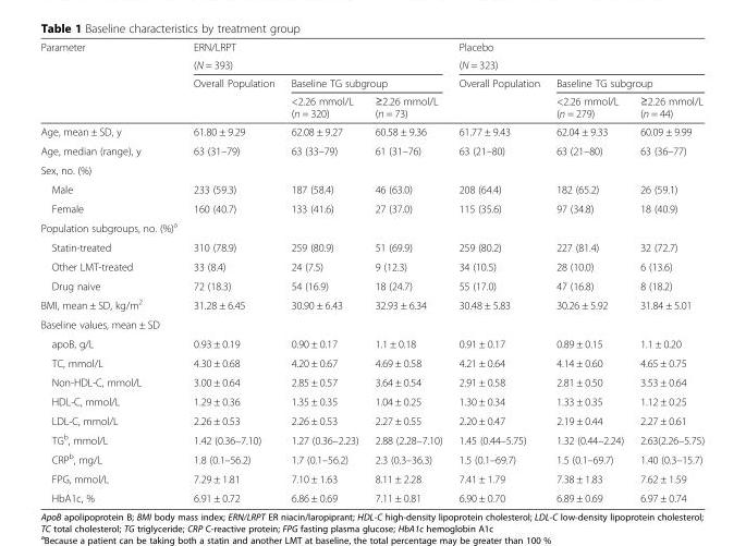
<table><thead><tr><td rowspan="4">Parameter</td><td>ERN/LRPT</td><td></td><td></td><td>Placebo</td><td></td><td></td></tr><tr><td colspan="3">(N = 393)</td><td colspan="3">(N = 323)</td></tr><tr><td rowspan="2">Overall Population</td><td colspan="2">Baseline TG subgroup</td><td rowspan="2">Overall Population</td><td colspan="2">Baseline TG subgroup</td></tr><tr><td>&lt;2.26 mmol/L (n = 320)</td><td>≥2.26 mmol/L (n = 73)</td><td>&lt;2.26 mmol/L (n = 279)</td><td>≥2.26 mmol/L (n = 44)</td></tr></thead><tbody><tr><td>Age, mean ± SD, y</td><td>61.80 ± 9.29</td><td>62.08 ± 9.27</td><td>60.58 ± 9.36</td><td>61.77 ± 9.43</td><td>62.04 ± 9.33</td><td>60.09 ± 9.99</td></tr><tr><td>Age, median (range), y</td><td>63 (31–79)</td><td>63 (33–79)</td><td>61 (31–76)</td><td>63 (21–80)</td><td>63 (21–80)</td><td>63 (36–77)</td></tr><tr><td colspan="7">Sex, no. (%)</td></tr><tr><td>Male</td><td>233 (59.3)</td><td>187 (58.4)</td><td>46 (63.0)</td><td>208 (64.4)</td><td>182 (65.2)</td><td>26 (59.1)</td></tr><tr><td>Female</td><td>160 (40.7)</td><td>133 (41.6)</td><td>27 (37.0)</td><td>115 (35.6)</td><td>97 (34.8)</td><td>18 (40.9)</td></tr><tr><td colspan="7">Population subgroups, no. (%)<sup>a</sup></td></tr><tr><td>Statin-treated</td><td>310 (78.9)</td><td>259 (80.9)</td><td>51 (69.9)</td><td>259 (80.2)</td><td>227 (81.4)</td><td>32 (72.7)</td></tr><tr><td>Other LMT-treated</td><td>33 (8.4)</td><td>24 (7.5)</td><td>9 (12.3)</td><td>34 (10.5)</td><td>28 (10.0)</td><td>6 (13.6)</td></tr><tr><td>Drug naive</td><td>72 (18.3)</td><td>54 (16.9)</td><td>18 (24.7)</td><td>55 (17.0)</td><td>47 (16.8)</td><td>8 (18.2)</td></tr><tr><td>BMI, mean ± SD, kg/m<sup>2</sup></td><td>31.28 ± 6.45</td><td>30.90 ± 6.43</td><td>32.93 ± 6.34</td><td>30.48 ± 5.83</td><td>30.26 ± 5.92</td><td>31.84 ± 5.01</td></tr><tr><td colspan="7">Baseline values, mean ± SD</td></tr><tr><td>apoB, g/L</td><td>0.93 ± 0.19</td><td>0.90 ± 0.17</td><td>1.1 ± 0.18</td><td>0.91 ± 0.17</td><td>0.89 ± 0.15</td><td>1.1 ± 0.20</td></tr><tr><td>TC, mmol/L</td><td>4.30 ± 0.68</td><td>4.20 ± 0.67</td><td>4.69 ± 0.58</td><td>4.21 ± 0.64</td><td>4.14 ± 0.60</td><td>4.65 ± 0.75</td></tr><tr><td>Non-HDL-C, mmol/L</td><td>3.00 ± 0.64</td><td>2.85 ± 0.57</td><td>3.64 ± 0.54</td><td>2.91 ± 0.58</td><td>2.81 ± 0.50</td><td>3.53 ± 0.64</td></tr><tr><td>HDL-C, mmol/L</td><td>1.29 ± 0.36</td><td>1.35 ± 0.35</td><td>1.04 ± 0.25</td><td>1.30 ± 0.34</td><td>1.33 ± 0.35</td><td>1.12 ± 0.25</td></tr><tr><td>LDL-C, mmol/L</td><td>2.26 ± 0.53</td><td>2.26 ± 0.53</td><td>2.27 ± 0.55</td><td>2.20 ± 0.47</td><td>2.19 ± 0.44</td><td>2.27 ± 0.61</td></tr><tr><td>TG<sup>b</sup>, mmol/L</td><td>1.42 (0.36–7.10)</td><td>1.27 (0.36–2.23)</td><td>2.88 (2.28–7.10)</td><td>1.45 (0.44–5.75)</td><td>1.32 (0.44–2.24)</td><td>2.63(2.26–5.75)</td></tr><tr><td>CRP<sup>b</sup>, mg/L</td><td>1.8 (0.1–56.2)</td><td>1.7 (0.1–56.2)</td><td>2.3 (0.3–36.3)</td><td>1.5 (0.1–69.7)</td><td>1.5 (0.1–69.7)</td><td>1.40 (0.3–15.7)</td></tr><tr><td>FPG, mmol/L</td><td>7.29 ± 1.81</td><td>7.10 ± 1.63</td><td>8.11 ± 2.28</td><td>7.41 ± 1.79</td><td>7.38 ± 1.83</td><td>7.62 ± 1.59</td></tr><tr><td>HbA1c, %</td><td>6.91 ± 0.72</td><td>6.86 ± 0.69</td><td>7.11 ± 0.81</td><td>6.90 ± 0.70</td><td>6.89 ± 0.69</td><td>6.97 ± 0.74</td></tr></tbody></table>